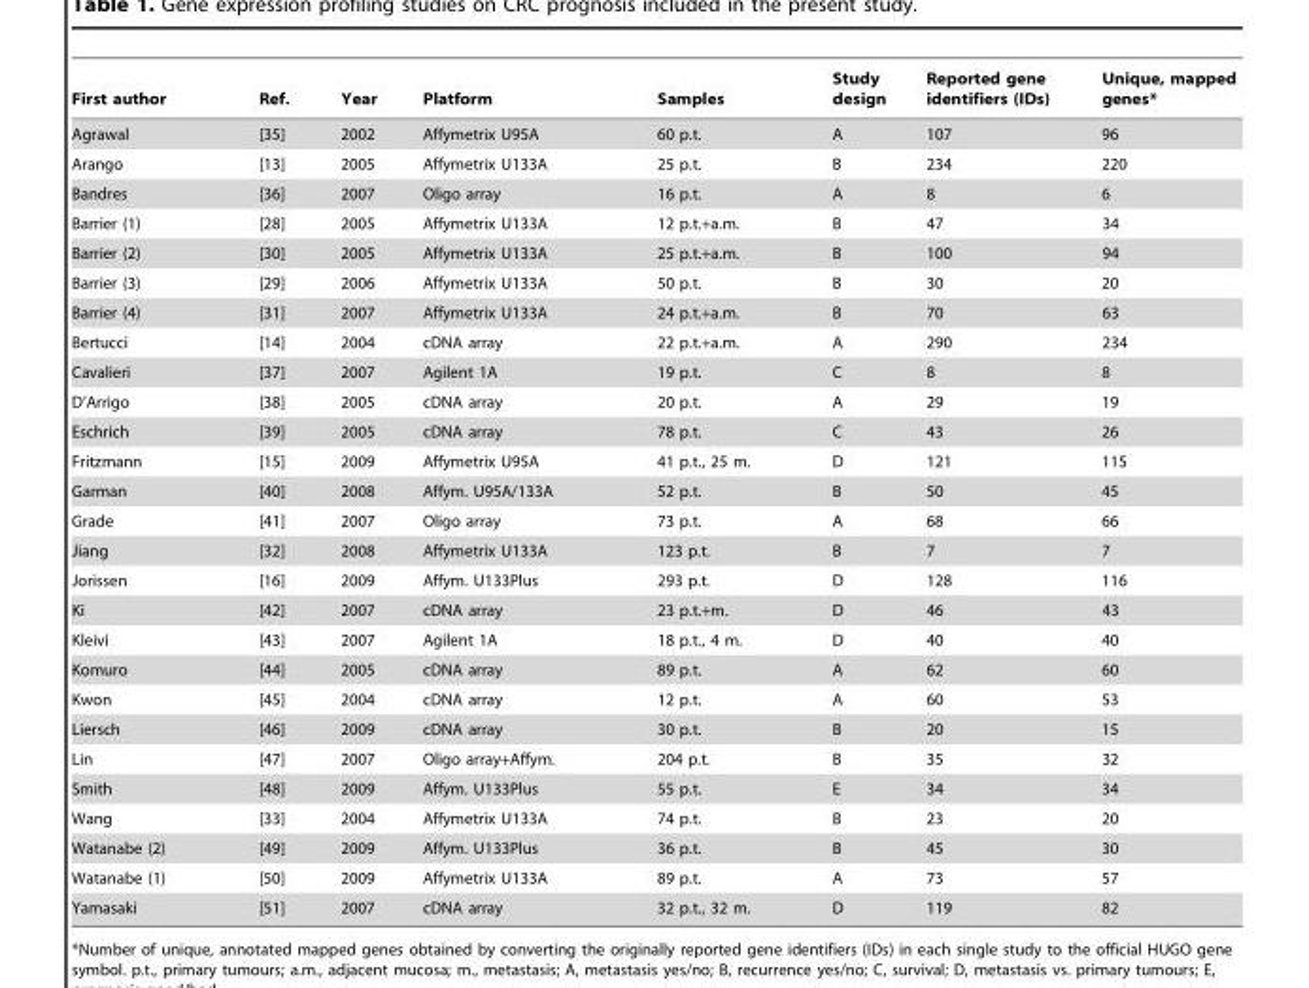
<table><thead><tr><td>First author</td><td>Ref.</td><td>Year</td><td>Platform</td><td>Samples</td><td>Study design</td><td>Reported gene identifiers (IDs)</td><td>Unique, mapped genes*</td></tr></thead><tbody><tr><td>Agrawal</td><td>[35]</td><td>2002</td><td>Affymetrix U95A</td><td>60 p.t.</td><td>A</td><td>107</td><td>96</td></tr><tr><td>Arango</td><td>[13]</td><td>2005</td><td>Affymetrix U133A</td><td>25 p.t.</td><td>B</td><td>234</td><td>220</td></tr><tr><td>Bandres</td><td>[36]</td><td>2007</td><td>Oligo array</td><td>16 p.t.</td><td>A</td><td>8</td><td>6</td></tr><tr><td>Barrier (1)</td><td>[28]</td><td>2005</td><td>Affymetrix U133A</td><td>12 p.t.+a.m.</td><td>B</td><td>47</td><td>34</td></tr><tr><td>Barrier (2)</td><td>[30]</td><td>2005</td><td>Affymetrix U133A</td><td>25 p.t.+a.m.</td><td>B</td><td>100</td><td>94</td></tr><tr><td>Barrier (3)</td><td>[29]</td><td>2006</td><td>Affymetrix U133A</td><td>50 p.t.</td><td>B</td><td>30</td><td>20</td></tr><tr><td>Barrier (4)</td><td>[31]</td><td>2007</td><td>Affymetrix U133A</td><td>24 p.t.+a.m.</td><td>B</td><td>70</td><td>63</td></tr><tr><td>Bertucci</td><td>[14]</td><td>2004</td><td>cDNA array</td><td>22 p.t.+a.m.</td><td>A</td><td>290</td><td>234</td></tr><tr><td>Cavalieri</td><td>[37]</td><td>2007</td><td>Agilent 1A</td><td>19 p.t.</td><td>C</td><td>8</td><td>8</td></tr><tr><td>D’Arrigo</td><td>[38]</td><td>2005</td><td>cDNA array</td><td>20 p.t.</td><td>A</td><td>29</td><td>19</td></tr><tr><td>Eschrich</td><td>[39]</td><td>2005</td><td>cDNA array</td><td>78 p.t.</td><td>C</td><td>43</td><td>26</td></tr><tr><td>Fritzmann</td><td>[15]</td><td>2009</td><td>Affymetrix U95A</td><td>41 p.t., 25 m.</td><td>D</td><td>121</td><td>115</td></tr><tr><td>Garman</td><td>[40]</td><td>2008</td><td>Affym. U95A/133A</td><td>52 p.t.</td><td>B</td><td>50</td><td>45</td></tr><tr><td>Grade</td><td>[41]</td><td>2007</td><td>Oligo array</td><td>73 p.t.</td><td>A</td><td>68</td><td>66</td></tr><tr><td>Jiang</td><td>[32]</td><td>2008</td><td>Affymetrix U133A</td><td>123 p.t.</td><td>B</td><td>7</td><td>7</td></tr><tr><td>Jorissen</td><td>[16]</td><td>2009</td><td>Affym. U133Plus</td><td>293 p.t.</td><td>D</td><td>128</td><td>116</td></tr><tr><td>Ki</td><td>[42]</td><td>2007</td><td>cDNA array</td><td>23 p.t.+m.</td><td>D</td><td>46</td><td>43</td></tr><tr><td>Kleivi</td><td>[43]</td><td>2007</td><td>Agilent 1A</td><td>18 p.t., 4 m.</td><td>D</td><td>40</td><td>40</td></tr><tr><td>Komuro</td><td>[44]</td><td>2005</td><td>cDNA array</td><td>89 p.t.</td><td>A</td><td>62</td><td>60</td></tr><tr><td>Kwon</td><td>[45]</td><td>2004</td><td>cDNA array</td><td>12 p.t.</td><td>A</td><td>60</td><td>53</td></tr><tr><td>Liersch</td><td>[46]</td><td>2009</td><td>cDNA array</td><td>30 p.t.</td><td>B</td><td>20</td><td>15</td></tr><tr><td>Lin</td><td>[47]</td><td>2007</td><td>Oligo array+Affym.</td><td>204 p.t.</td><td>B</td><td>35</td><td>32</td></tr><tr><td>Smith</td><td>[48]</td><td>2009</td><td>Affym. U133Plus</td><td>55 p.t.</td><td>E</td><td>34</td><td>34</td></tr><tr><td>Wang</td><td>[33]</td><td>2004</td><td>Affymetrix U133A</td><td>74 p.t.</td><td>B</td><td>23</td><td>20</td></tr><tr><td>Watanabe (2)</td><td>[49]</td><td>2009</td><td>Affym. U133Plus</td><td>36 p.t.</td><td>B</td><td>45</td><td>30</td></tr><tr><td>Watanabe (1)</td><td>[50]</td><td>2009</td><td>Affymetrix U133A</td><td>89 p.t.</td><td>A</td><td>73</td><td>57</td></tr><tr><td>Yamasaki</td><td>[51]</td><td>2007</td><td>cDNA array</td><td>32 p.t., 32 m.</td><td>D</td><td>119</td><td>82</td></tr></tbody></table>